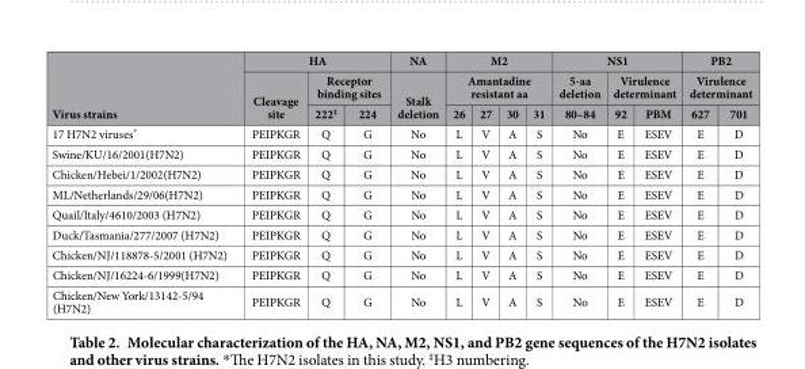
<table><thead><tr><td rowspan="3">Virus strains</td><td colspan="3">HA</td><td rowspan="3">NA Stalk deletion</td><td rowspan="2" colspan="4">M2 Amantadine resistant aa</td><td colspan="3">NS1</td><td rowspan="2" colspan="2">PB2 Virulence determinant</td></tr><tr><td rowspan="2">Cleavage site</td><td colspan="2">Receptor binding sites</td><td rowspan="2">5-aa deletion 80–84</td><td colspan="2">Virulence determinant</td></tr><tr><td>222‡</td><td>224</td><td>26</td><td>27</td><td>30</td><td>31</td><td>92</td><td>PBM</td><td>627</td><td>701</td></tr></thead><tbody><tr><td>17 H7N2 viruses*</td><td>PEIPKGR</td><td>Q</td><td>G</td><td>No</td><td>L</td><td>V</td><td>A</td><td>S</td><td>No</td><td>E</td><td>ESEV</td><td>E</td><td>D</td></tr><tr><td>Swine/KU/16/2001(H7N2)</td><td>PEIPKGR</td><td>Q</td><td>G</td><td>No</td><td>L</td><td>V</td><td>A</td><td>S</td><td>No</td><td>E</td><td>ESEV</td><td>E</td><td>D</td></tr><tr><td>Chicken/Hebei/1/2002(H7N2)</td><td>PEIPKGR</td><td>Q</td><td>G</td><td>No</td><td>L</td><td>V</td><td>A</td><td>S</td><td>No</td><td>E</td><td>ESEV</td><td>E</td><td>D</td></tr><tr><td>ML/Netherlands/29/06(H7N2)</td><td>PEIPKGR</td><td>Q</td><td>G</td><td>No</td><td>L</td><td>V</td><td>A</td><td>S</td><td>No</td><td>E</td><td>ESEV</td><td>E</td><td>D</td></tr><tr><td>Quail/Italy/4610/2003 (H7N2)</td><td>PEIPKGR</td><td>Q</td><td>G</td><td>No</td><td>L</td><td>V</td><td>A</td><td>S</td><td>No</td><td>E</td><td>ESEV</td><td>E</td><td>D</td></tr><tr><td>Duck/Tasmania/277/2007 (H7N2)</td><td>PEIPKGR</td><td>Q</td><td>G</td><td>No</td><td>L</td><td>V</td><td>A</td><td>S</td><td>No</td><td>E</td><td>ESEV</td><td>E</td><td>D</td></tr><tr><td>Chicken/NJ/118878-5/2001 (H7N2)</td><td>PEIPKGR</td><td>Q</td><td>G</td><td>No</td><td>L</td><td>V</td><td>A</td><td>S</td><td>No</td><td>E</td><td>ESEV</td><td>E</td><td>D</td></tr><tr><td>Chicken/NJ/16224-6/1999(H7N2)</td><td>PEIPKGR</td><td>Q</td><td>G</td><td>No</td><td>L</td><td>V</td><td>A</td><td>S</td><td>No</td><td>E</td><td>ESEV</td><td>E</td><td>D</td></tr><tr><td>Chicken/New York/13142-5/94 (H7N2)</td><td>PEIPKGR</td><td>Q</td><td>G</td><td>No</td><td>L</td><td>V</td><td>A</td><td>S</td><td>No</td><td>E</td><td>ESEV</td><td>E</td><td>D</td></tr></tbody></table>